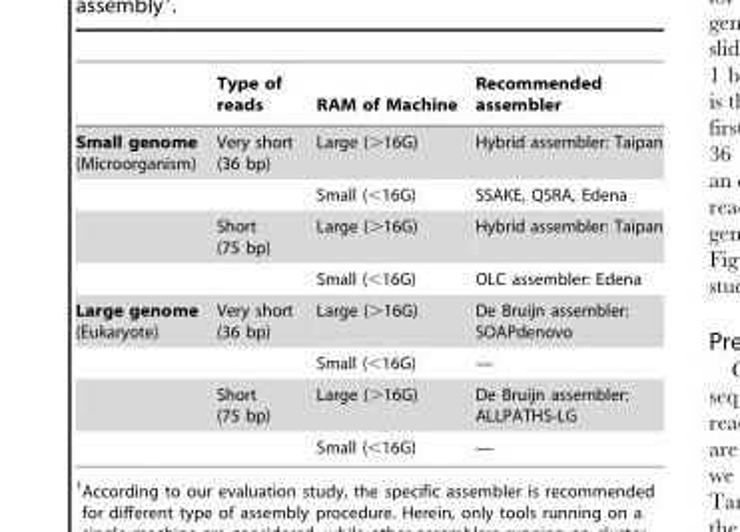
<table><thead><tr><td></td><td>Type of reads</td><td>RAM of Machine</td><td>Recommended assembler</td></tr></thead><tbody><tr><td rowspan="4">Small genome (Microorganism)</td><td>Very short (36 bp)</td><td>Large (&gt;16G)</td><td>Hybrid assembler: Taipan</td></tr><tr><td></td><td>Small (&lt;16G)</td><td>SSAKE, QSRA, Edena</td></tr><tr><td>Short (75 bp)</td><td>Large (&gt;16G)</td><td>Hybrid assembler: Taipan</td></tr><tr><td></td><td>Small (&lt;16G)</td><td>OLC assembler: Edena</td></tr><tr><td rowspan="4">Large genome (Eukaryote)</td><td>Very short (36 bp)</td><td>Large (&gt;16G)</td><td>De Bruijn assembler: SOAPdenovo</td></tr><tr><td></td><td>Small (&lt;16G)</td><td>—</td></tr><tr><td>Short (75 bp)</td><td>Large (&gt;16G)</td><td>De Bruijn assembler: ALLPATHS-LG</td></tr><tr><td></td><td>Small (&lt;16G)</td><td>—</td></tr></tbody></table>